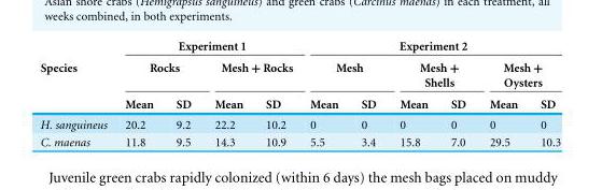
<table><thead><tr><td rowspan="3">Species</td><td colspan="4">Experiment 1</td><td colspan="6">Experiment 2</td></tr><tr><td colspan="2">Rocks</td><td colspan="2">Mesh + Rocks</td><td colspan="2">Mesh</td><td colspan="2">Mesh + Shells</td><td colspan="2">Mesh + Oysters</td></tr><tr><td>Mean</td><td>SD</td><td>Mean</td><td>SD</td><td>Mean</td><td>SD</td><td>Mean</td><td>SD</td><td>Mean</td><td>SD</td></tr></thead><tbody><tr><td>H. sanguineus</td><td>20.2</td><td>9.2</td><td>22.2</td><td>10.2</td><td>0</td><td>0</td><td>0</td><td>0</td><td>0</td><td>0</td></tr><tr><td>C. maenas</td><td>11.8</td><td>9.5</td><td>14.3</td><td>10.9</td><td>5.5</td><td>3.4</td><td>15.8</td><td>7.0</td><td>29.5</td><td>10.3</td></tr></tbody></table>